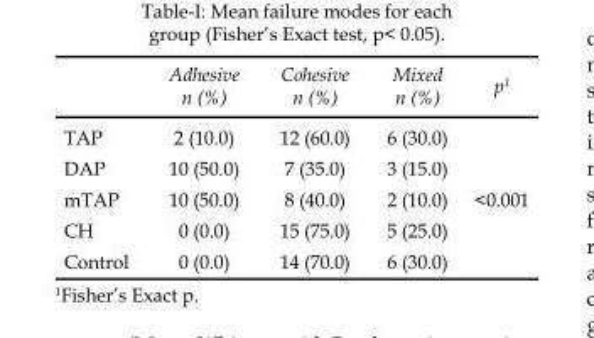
<table><thead><tr><td></td><td>Adhesive n (%)</td><td>Cohesive n (%)</td><td>Mixed n (%)</td><td>p<sup>1</sup></td></tr></thead><tbody><tr><td>TAP</td><td>2 (10.0)</td><td>12 (60.0)</td><td>6 (30.0)</td><td rowspan="5">&lt;0.001</td></tr><tr><td>DAP</td><td>10 (50.0)</td><td>7 (35.0)</td><td>3 (15.0)</td></tr><tr><td>mTAP</td><td>10 (50.0)</td><td>8 (40.0)</td><td>2 (10.0)</td></tr><tr><td>CH</td><td>0 (0.0)</td><td>15 (75.0)</td><td>5 (25.0)</td></tr><tr><td>Control</td><td>0 (0.0)</td><td>14 (70.0)</td><td>6 (30.0)</td></tr></tbody></table>